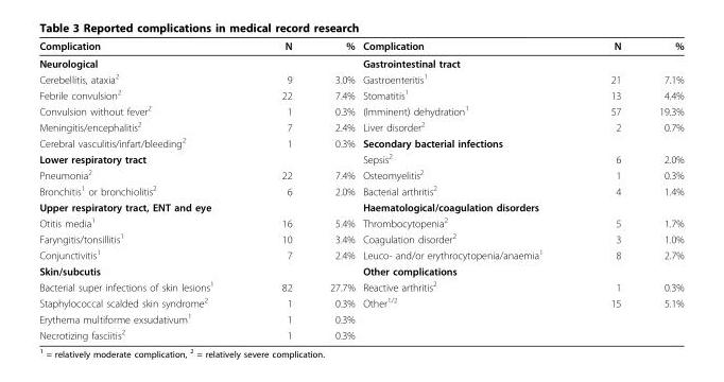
<table><thead><tr><td>Complication</td><td>N</td><td>%</td><td>Complication</td><td>N</td><td>%</td></tr></thead><tbody><tr><td>Neurological</td><td></td><td></td><td>Gastrointestinal tract</td><td></td><td></td></tr><tr><td>Cerebellitis, ataxia<sup>2</sup></td><td>9</td><td>3.0%</td><td>Gastroenteritis<sup>1</sup></td><td>21</td><td>7.1%</td></tr><tr><td>Febrile convulsion<sup>2</sup></td><td>22</td><td>7.4%</td><td>Stomatitis<sup>1</sup></td><td>13</td><td>4.4%</td></tr><tr><td>Convulsion without fever<sup>2</sup></td><td>1</td><td>0.3%</td><td>(Imminent) dehydration<sup>1</sup></td><td>57</td><td>19.3%</td></tr><tr><td>Meningitis/encephalitis<sup>2</sup></td><td>7</td><td>2.4%</td><td>Liver disorder<sup>2</sup></td><td>2</td><td>0.7%</td></tr><tr><td>Cerebral vasculitis/infart/bleeding<sup>2</sup></td><td>1</td><td>0.3%</td><td>Secondary bacterial infections</td><td></td><td></td></tr><tr><td>Lower respiratory tract</td><td></td><td></td><td>Sepsis<sup>2</sup></td><td>6</td><td>2.0%</td></tr><tr><td>Pneumonia<sup>2</sup></td><td>22</td><td>7.4%</td><td>Osteomyelitis<sup>2</sup></td><td>1</td><td>0.3%</td></tr><tr><td>Bronchitis<sup>1</sup> or bronchiolitis<sup>2</sup></td><td>6</td><td>2.0%</td><td>Bacterial arthritis<sup>2</sup></td><td>4</td><td>1.4%</td></tr><tr><td>Upper respiratory tract, ENT and eye</td><td></td><td></td><td>Haematological/coagulation disorders</td><td></td><td></td></tr><tr><td>Otitis media<sup>1</sup></td><td>16</td><td>5.4%</td><td>Thrombocytopenia<sup>2</sup></td><td>5</td><td>1.7%</td></tr><tr><td>Faryngitis/tonsillitis<sup>1</sup></td><td>10</td><td>3.4%</td><td>Coagulation disorder<sup>2</sup></td><td>3</td><td>1.0%</td></tr><tr><td>Conjunctivitis<sup>1</sup></td><td>7</td><td>2.4%</td><td>Leuco- and/or erythrocytopenia/anaemia<sup>1</sup></td><td>8</td><td>2.7%</td></tr><tr><td>Skin/subcutis</td><td></td><td></td><td>Other complications</td><td></td><td></td></tr><tr><td>Bacterial super infections of skin lesions<sup>1</sup></td><td>82</td><td>27.7%</td><td>Reactive arthritis<sup>2</sup></td><td>1</td><td>0.3%</td></tr><tr><td>Staphylococcal scalded skin syndrome<sup>2</sup></td><td>1</td><td>0.3%</td><td>Other<sup>1/2</sup></td><td>15</td><td>5.1%</td></tr><tr><td>Erythema multiforme exsudativum<sup>1</sup></td><td>1</td><td>0.3%</td><td></td><td></td><td></td></tr><tr><td>Necrotizing fasciitis<sup>2</sup></td><td>1</td><td>0.3%</td><td></td><td></td><td></td></tr></tbody></table>